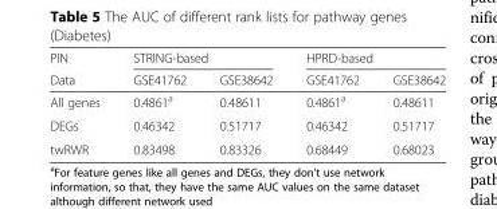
<table><thead><tr><td rowspan="2">PIN Data</td><td colspan="2">STRING-based</td><td colspan="2">HPRD-based</td></tr><tr><td>GSE41762</td><td>GSE38642</td><td>GSE41762</td><td>GSE38642</td></tr></thead><tbody><tr><td>All genes</td><td>0.4861<sup>a</sup></td><td>0.48611</td><td>0.4861<sup>a</sup></td><td>0.48611</td></tr><tr><td>DEGs</td><td>0.46342</td><td>0.51717</td><td>0.46342</td><td>0.51717</td></tr><tr><td>twRWR</td><td>0.83498</td><td>0.83326</td><td>0.68449</td><td>0.68023</td></tr></tbody></table>